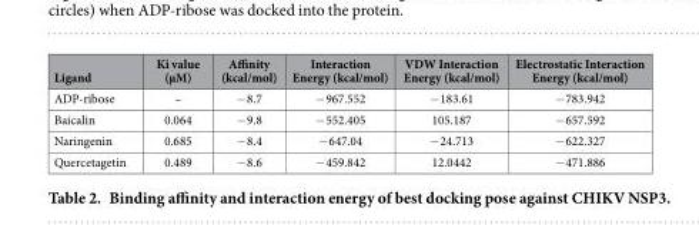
<table><thead><tr><td>Ligand</td><td>Ki value (μM)</td><td>Affinity (kcal/mol)</td><td>Interaction Energy (kcal/mol)</td><td>VDW Interaction Energy (kcal/mol)</td><td>Electrostatic Interaction Energy (kcal/mol)</td></tr></thead><tbody><tr><td>ADP-ribose</td><td>–</td><td>− 8.7</td><td>− 967.552</td><td>− 183.61</td><td>− 783.942</td></tr><tr><td>Baicalin</td><td>0.064</td><td>− 9.8</td><td>− 552.405</td><td>105.187</td><td>− 657.592</td></tr><tr><td>Naringenin</td><td>0.685</td><td>− 8.4</td><td>− 647.04</td><td>− 24.713</td><td>− 622.327</td></tr><tr><td>Quercetagetin</td><td>0.489</td><td>− 8.6</td><td>− 459.842</td><td>12.0442</td><td>− 471.886</td></tr></tbody></table>